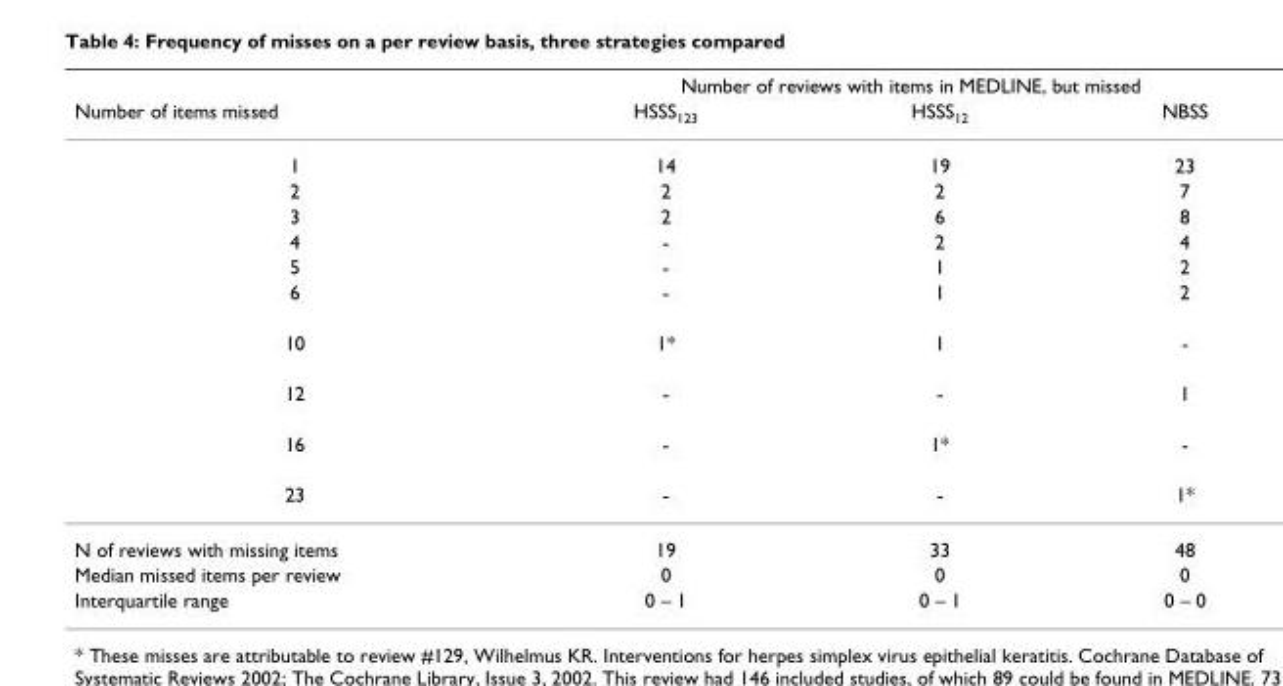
<table><thead><tr><td rowspan="2">Number of items missed</td><td colspan="3">Number of reviews with items in MEDLINE, but missed</td></tr><tr><td>HSSS<sub>123</sub></td><td>HSSS<sub>12</sub></td><td>NBSS</td></tr></thead><tbody><tr><td>1</td><td>14</td><td>19</td><td>23</td></tr><tr><td>2</td><td>2</td><td>2</td><td>7</td></tr><tr><td>3</td><td>2</td><td>6</td><td>8</td></tr><tr><td>4</td><td>-</td><td>2</td><td>4</td></tr><tr><td>5</td><td>-</td><td>1</td><td>2</td></tr><tr><td>6</td><td>-</td><td>1</td><td>2</td></tr><tr><td>10</td><td>1*</td><td>1</td><td>-</td></tr><tr><td>12</td><td>-</td><td>-</td><td>1</td></tr><tr><td>16</td><td>-</td><td>1*</td><td>-</td></tr><tr><td>23</td><td>-</td><td>-</td><td>1*</td></tr><tr><td>N of reviews with missing items</td><td>19</td><td>33</td><td>48</td></tr><tr><td>Median missed items per review</td><td>0</td><td>0</td><td>0</td></tr><tr><td>Interquartile range</td><td>0 – 1</td><td>0 – 1</td><td>0 – 0</td></tr></tbody></table>